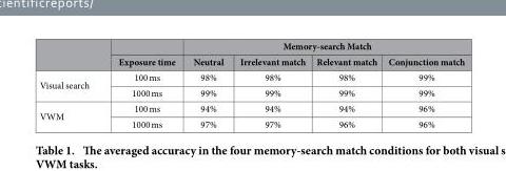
<table><thead><tr><td rowspan="2"></td><td rowspan="2">Exposure time</td><td colspan="4">Memory-search Match</td></tr><tr><td>Neutral</td><td>Irrelevant match</td><td>Relevant match</td><td>Conjunction match</td></tr></thead><tbody><tr><td rowspan="2">Visual search</td><td>100 ms</td><td>98%</td><td>98%</td><td>98%</td><td>99%</td></tr><tr><td>1000 ms</td><td>99%</td><td>99%</td><td>99%</td><td>99%</td></tr><tr><td rowspan="2">VWM</td><td>100 ms</td><td>94%</td><td>94%</td><td>94%</td><td>96%</td></tr><tr><td>1000 ms</td><td>97%</td><td>97%</td><td>96%</td><td>96%</td></tr></tbody></table>